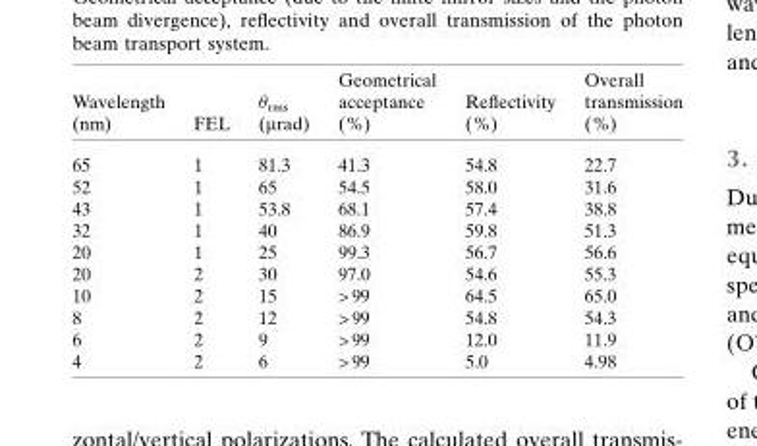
<table><thead><tr><td>Wavelength (nm)</td><td>FEL</td><td>�rms (mrad)</td><td>Geometrical acceptance (%)</td><td>Reflectivity (%)</td><td>Overall transmission (%)</td></tr></thead><tbody><tr><td>65</td><td>1</td><td>81.3</td><td>41.3</td><td>54.8</td><td>22.7</td></tr><tr><td>52</td><td>1</td><td>65</td><td>54.5</td><td>58.0</td><td>31.6</td></tr><tr><td>43</td><td>1</td><td>53.8</td><td>68.1</td><td>57.4</td><td>38.8</td></tr><tr><td>32</td><td>1</td><td>40</td><td>86.9</td><td>59.8</td><td>51.3</td></tr><tr><td>20</td><td>1</td><td>25</td><td>99.3</td><td>56.7</td><td>56.6</td></tr><tr><td>20</td><td>2</td><td>30</td><td>97.0</td><td>54.6</td><td>55.3</td></tr><tr><td>10</td><td>2</td><td>15</td><td>&gt;99</td><td>64.5</td><td>65.0</td></tr><tr><td>8</td><td>2</td><td>12</td><td>&gt;99</td><td>54.8</td><td>54.3</td></tr><tr><td>6</td><td>2</td><td>9</td><td>&gt;99</td><td>12.0</td><td>11.9</td></tr><tr><td>4</td><td>2</td><td>6</td><td>&gt;99</td><td>5.0</td><td>4.98</td></tr></tbody></table>